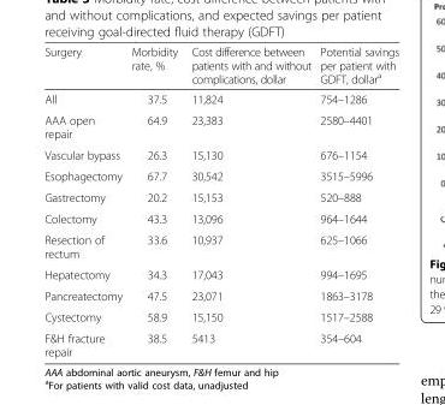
<table><thead><tr><td>Surgery</td><td>Morbidity rate, %</td><td>Cost difference between patients with and without complications, dollar</td><td>Potential savings per patient with GDFT, dollar<sup>a</sup></td></tr></thead><tbody><tr><td>All</td><td>37.5</td><td>11,824</td><td>754–1286</td></tr><tr><td>AAA open repair</td><td>64.9</td><td>23,383</td><td>2580–4401</td></tr><tr><td>Vascular bypass</td><td>26.3</td><td>15,130</td><td>676–1154</td></tr><tr><td>Esophagectomy</td><td>67.7</td><td>30,542</td><td>3515–5996</td></tr><tr><td>Gastrectomy</td><td>20.2</td><td>15,153</td><td>520–888</td></tr><tr><td>Colectomy</td><td>43.3</td><td>13,096</td><td>964–1644</td></tr><tr><td>Resection of rectum</td><td>33.6</td><td>10,937</td><td>625–1066</td></tr><tr><td>Hepatectomy</td><td>34.3</td><td>17,043</td><td>994–1695</td></tr><tr><td>Pancreatectomy</td><td>47.5</td><td>23,071</td><td>1863–3178</td></tr><tr><td>Cystectomy</td><td>58.9</td><td>15,150</td><td>1517–2588</td></tr><tr><td>F&amp;H fracture repair</td><td>38.5</td><td>5413</td><td>354–604</td></tr></tbody></table>